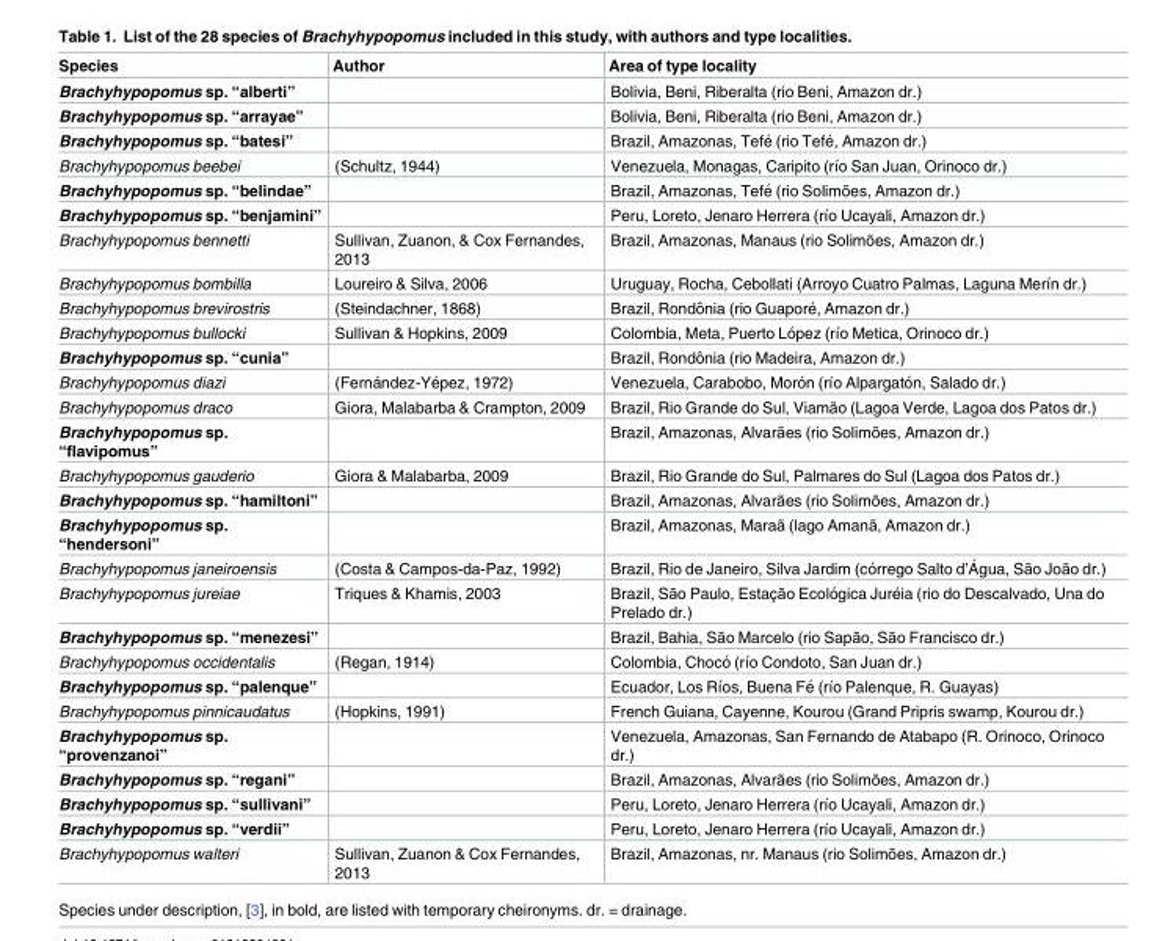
<table><thead><tr><td>Species</td><td>Author</td><td>Area of type locality</td></tr></thead><tbody><tr><td>Brachyhypopomus sp. “alberti”</td><td></td><td>Bolivia, Beni, Riberalta (rio Beni, Amazon dr.)</td></tr><tr><td>Brachyhypopomus sp. “arrayae”</td><td></td><td>Bolivia, Beni, Riberalta (rio Beni, Amazon dr.)</td></tr><tr><td>Brachyhypopomus sp. “batesi”</td><td></td><td>Brazil, Amazonas, Tefe´ (rio Tefe´, Amazon dr.)</td></tr><tr><td>Brachyhypopomus beebei</td><td>(Schultz, 1944)</td><td>Venezuela, Monagas, Caripito (rı´o San Juan, Orinoco dr.)</td></tr><tr><td>Brachyhypopomus sp. “belindae”</td><td></td><td>Brazil, Amazonas, Tefe´ (rio Solimões, Amazon dr.)</td></tr><tr><td>Brachyhypopomus sp. “benjamini”</td><td></td><td>Peru, Loreto, Jenaro Herrera (rı´o Ucayali, Amazon dr.)</td></tr><tr><td>Brachyhypopomus bennetti</td><td>Sullivan, Zuanon, &amp; Cox Fernandes, 2013</td><td>Brazil, Amazonas, Manaus (rio Solimões, Amazon dr.)</td></tr><tr><td>Brachyhypopomus bombilla</td><td>Loureiro &amp; Silva, 2006</td><td>Uruguay, Rocha, Cebollati (Arroyo Cuatro Palmas, Laguna Merı´n dr.)</td></tr><tr><td>Brachyhypopomus brevirostris</td><td>(Steindachner, 1868)</td><td>Brazil, Rondoˆnia (rio Guapore´, Amazon dr.)</td></tr><tr><td>Brachyhypopomus bullocki</td><td>Sullivan &amp; Hopkins, 2009</td><td>Colombia, Meta, Puerto Lo´pez (rı´o Metica, Orinoco dr.)</td></tr><tr><td>Brachyhypopomus sp. “cunia”</td><td></td><td>Brazil, Rondoˆnia (rio Madeira, Amazon dr.)</td></tr><tr><td>Brachyhypopomus diazi</td><td>(Ferna´ndez-Ye´pez, 1972)</td><td>Venezuela, Carabobo, Moro´n (rı´o Alpargato´n, Salado dr.)</td></tr><tr><td>Brachyhypopomus draco</td><td>Giora, Malabarba &amp; Crampton, 2009</td><td>Brazil, Rio Grande do Sul, Viamão (Lagoa Verde, Lagoa dos Patos dr.)</td></tr><tr><td>Brachyhypopomus sp. “flavipomus”</td><td></td><td>Brazil, Amazonas, Alvarães (rio Solimões, Amazon dr.)</td></tr><tr><td>Brachyhypopomus gauderio</td><td>Giora &amp; Malabarba, 2009</td><td>Brazil, Rio Grande do Sul, Palmares do Sul (Lagoa dos Patos dr.)</td></tr><tr><td>Brachyhypopomus sp. “hamiltoni”</td><td></td><td>Brazil, Amazonas, Alvarães (rio Solimões, Amazon dr.)</td></tr><tr><td>Brachyhypopomus sp. “hendersoni”</td><td></td><td>Brazil, Amazonas, Maraã (lago Amanã, Amazon dr.)</td></tr><tr><td>Brachyhypopomus janeiroensis</td><td>(Costa &amp; Campos-da-Paz, 1992)</td><td>Brazil, Rio de Janeiro, Silva Jardim (co´rrego Salto d’A´ gua, São João dr.)</td></tr><tr><td>Brachyhypopomus jureiae</td><td>Triques &amp; Khamis, 2003</td><td>Brazil, São Paulo, Estac¸ão Ecolo´gica Jure´ia (rio do Descalvado, Una do Prelado dr.)</td></tr><tr><td>Brachyhypopomus sp. “menezesi”</td><td></td><td>Brazil, Bahia, São Marcelo (rio Sapão, São Francisco dr.)</td></tr><tr><td>Brachyhypopomus occidentalis</td><td>(Regan, 1914)</td><td>Colombia, Choco´ (rı´o Condoto, San Juan dr.)</td></tr><tr><td>Brachyhypopomus sp. “palenque”</td><td></td><td>Ecuador, Los Rı´os, Buena Fe´ (rı´o Palenque, R. Guayas)</td></tr><tr><td>Brachyhypopomus pinnicaudatus</td><td>(Hopkins, 1991)</td><td>French Guiana, Cayenne, Kourou (Grand Pripris swamp, Kourou dr.)</td></tr><tr><td>Brachyhypopomus sp. “provenzanoi”</td><td></td><td>Venezuela, Amazonas, San Fernando de Atabapo (R. Orinoco, Orinoco dr.)</td></tr><tr><td>Brachyhypopomus sp. “regani”</td><td></td><td>Brazil, Amazonas, Alvarães (rio Solimões, Amazon dr.)</td></tr><tr><td>Brachyhypopomus sp. “sullivani”</td><td></td><td>Peru, Loreto, Jenaro Herrera (rı´o Ucayali, Amazon dr.)</td></tr><tr><td>Brachyhypopomus sp. “verdii”</td><td></td><td>Peru, Loreto, Jenaro Herrera (rı´o Ucayali, Amazon dr.)</td></tr><tr><td>Brachyhypopomus walteri</td><td>Sullivan, Zuanon &amp; Cox Fernandes, 2013</td><td>Brazil, Amazonas, nr. Manaus (rio Solimões, Amazon dr.)</td></tr></tbody></table>